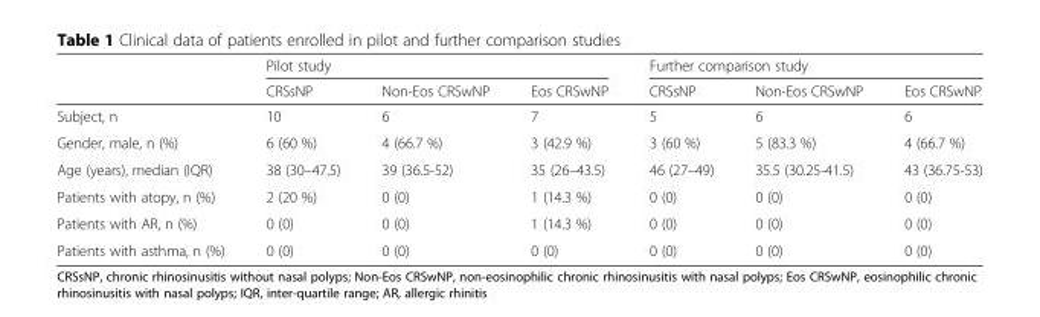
<table><thead><tr><td rowspan="2"></td><td colspan="3">Pilot study</td><td colspan="3">Further comparison study</td></tr><tr><td>CRSsNP</td><td>Non-Eos CRSwNP</td><td>Eos CRSwNP</td><td>CRSsNP</td><td>Non-Eos CRSwNP</td><td>Eos CRSwNP</td></tr></thead><tbody><tr><td>Subject, n</td><td>10</td><td>6</td><td>7</td><td>5</td><td>6</td><td>6</td></tr><tr><td>Gender, male, n (%)</td><td>6 (60 %)</td><td>4 (66.7 %)</td><td>3 (42.9 %)</td><td>3 (60 %)</td><td>5 (83.3 %)</td><td>4 (66.7 %)</td></tr><tr><td>Age (years), median (IQR)</td><td>38 (30–47.5)</td><td>39 (36.5-52)</td><td>35 (26–43.5)</td><td>46 (27–49)</td><td>35.5 (30.25-41.5)</td><td>43 (36.75-53)</td></tr><tr><td>Patients with atopy, n (%)</td><td>2 (20 %)</td><td>0 (0)</td><td>1 (14.3 %)</td><td>0 (0)</td><td>0 (0)</td><td>0 (0)</td></tr><tr><td>Patients with AR, n (%)</td><td>0 (0)</td><td>0 (0)</td><td>1 (14.3 %)</td><td>0 (0)</td><td>0 (0)</td><td>0 (0)</td></tr><tr><td>Patients with asthma, n (%)</td><td>0 (0)</td><td>0 (0)</td><td>0 (0)</td><td>0 (0)</td><td>0 (0)</td><td>0 (0)</td></tr></tbody></table>